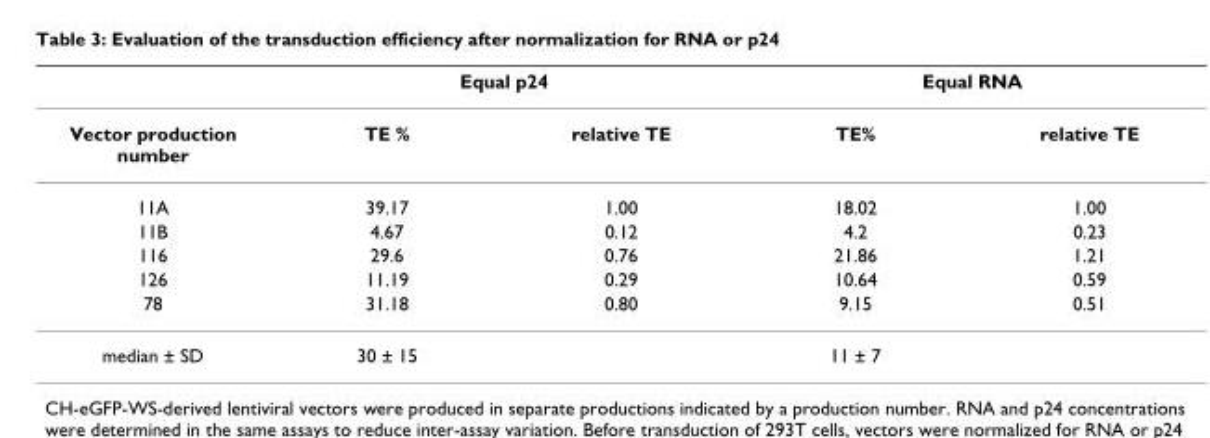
<table><thead><tr><td rowspan="2">Vector production number</td><td colspan="2">Equal p24</td><td colspan="2">Equal RNA</td></tr><tr><td>TE %</td><td>relative TE</td><td>TE%</td><td>relative TE</td></tr></thead><tbody><tr><td>11A</td><td>39.17</td><td>1.00</td><td>18.02</td><td>1.00</td></tr><tr><td>11B</td><td>4.67</td><td>0.12</td><td>4.2</td><td>0.23</td></tr><tr><td>116</td><td>29.6</td><td>0.76</td><td>21.86</td><td>1.21</td></tr><tr><td>126</td><td>11.19</td><td>0.29</td><td>10.64</td><td>0.59</td></tr><tr><td>78</td><td>31.18</td><td>0.80</td><td>9.15</td><td>0.51</td></tr><tr><td>median ± SD</td><td>30 ± 15</td><td></td><td>11 ± 7</td><td></td></tr></tbody></table>